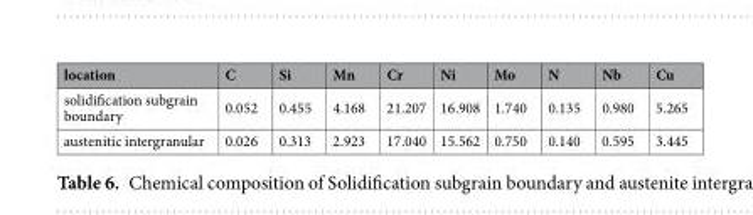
<table><thead><tr><td>location</td><td>C</td><td>Si</td><td>Mn</td><td>Cr</td><td>Ni</td><td>Mo</td><td>N</td><td>Nb</td><td>Cu</td></tr></thead><tbody><tr><td>solidification subgrain boundary</td><td>0.052</td><td>0.455</td><td>4.168</td><td>21.207</td><td>16.908</td><td>1.740</td><td>0.135</td><td>0.980</td><td>5.265</td></tr><tr><td>austenitic intergranular</td><td>0.026</td><td>0.313</td><td>2.923</td><td>17.040</td><td>15.562</td><td>0.750</td><td>0.140</td><td>0.595</td><td>3.445</td></tr></tbody></table>